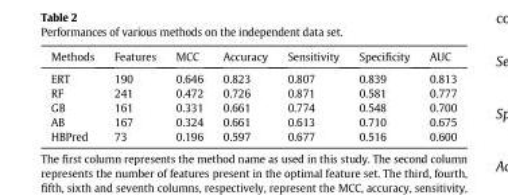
<table><thead><tr><td>Methods</td><td>Features</td><td>MCC</td><td>Accuracy</td><td>Sensitivity</td><td>Specificity</td><td>AUC</td></tr></thead><tbody><tr><td>ERT</td><td>190</td><td>0.646</td><td>0.823</td><td>0.807</td><td>0.839</td><td>0.813</td></tr><tr><td>RF</td><td>241</td><td>0.472</td><td>0.726</td><td>0.871</td><td>0.581</td><td>0.777</td></tr><tr><td>GB</td><td>161</td><td>0.331</td><td>0.661</td><td>0.774</td><td>0.548</td><td>0.700</td></tr><tr><td>AB</td><td>167</td><td>0.324</td><td>0.661</td><td>0.613</td><td>0.710</td><td>0.675</td></tr><tr><td>HBPred</td><td>73</td><td>0.196</td><td>0.597</td><td>0.677</td><td>0.516</td><td>0.600</td></tr></tbody></table>